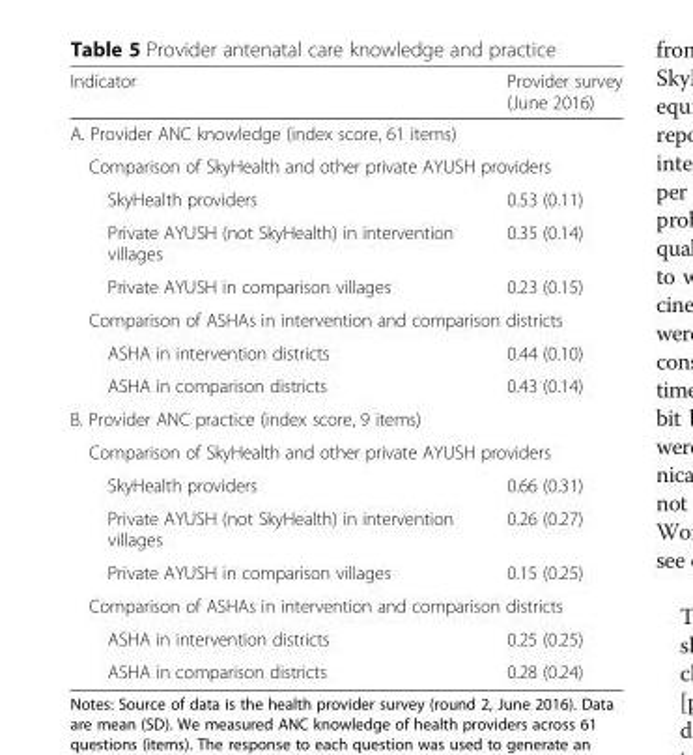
<table><thead><tr><td>Indicator</td><td>Provider survey (June 2016)</td></tr></thead><tbody><tr><td colspan="2">A. Provider ANC knowledge (index score, 61 items)</td></tr><tr><td colspan="2">Comparison of SkyHealth and other private AYUSH providers</td></tr><tr><td>SkyHealth providers</td><td>0.53 (0.11)</td></tr><tr><td>Private AYUSH (not SkyHealth) in intervention villages</td><td>0.35 (0.14)</td></tr><tr><td>Private AYUSH in comparison villages</td><td>0.23 (0.15)</td></tr><tr><td colspan="2">Comparison of ASHAs in intervention and comparison districts</td></tr><tr><td>ASHA in intervention districts</td><td>0.44 (0.10)</td></tr><tr><td>ASHA in comparison districts</td><td>0.43 (0.14)</td></tr><tr><td colspan="2">B. Provider ANC practice (index score, 9 items)</td></tr><tr><td colspan="2">Comparison of SkyHealth and other private AYUSH providers</td></tr><tr><td>SkyHealth providers</td><td>0.66 (0.31)</td></tr><tr><td>Private AYUSH (not SkyHealth) in intervention villages</td><td>0.26 (0.27)</td></tr><tr><td>Private AYUSH in comparison villages</td><td>0.15 (0.25)</td></tr><tr><td colspan="2">Comparison of ASHAs in intervention and comparison districts</td></tr><tr><td>ASHA in intervention districts</td><td>0.25 (0.25)</td></tr><tr><td>ASHA in comparison districts</td><td>0.28 (0.24)</td></tr></tbody></table>